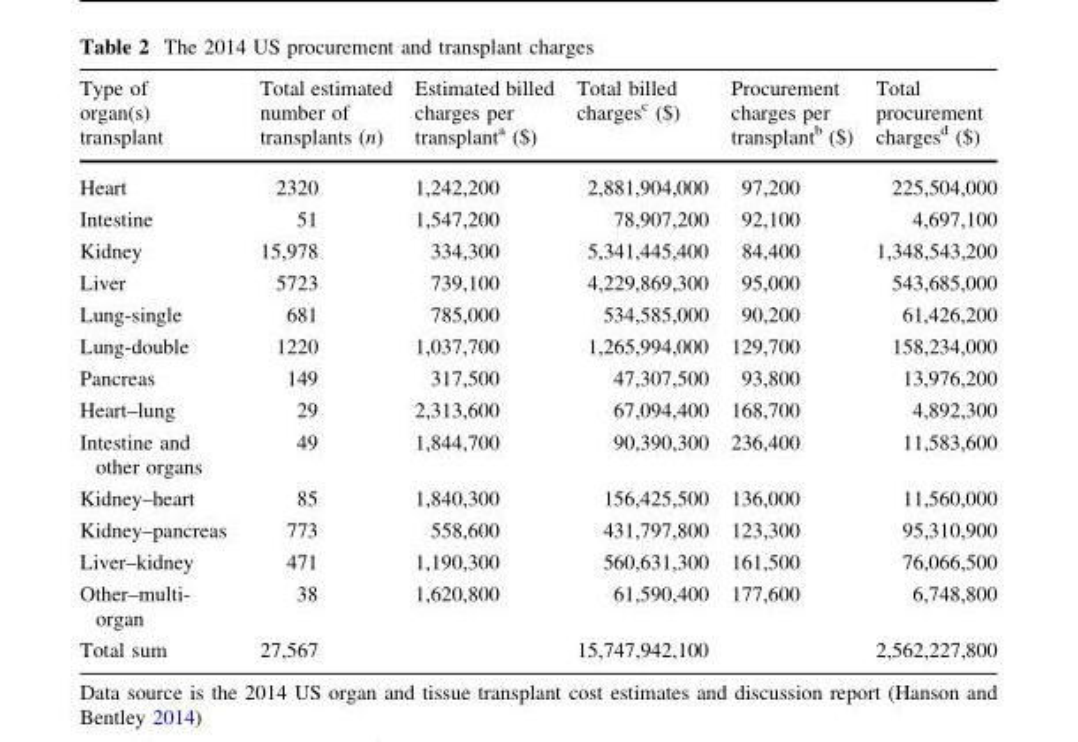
<table><thead><tr><td>Type of organ(s) transplant</td><td>Total estimated number of transplants (n)</td><td>Estimated billed charges per transplant<sup>a</sup> ($)</td><td>Total billed charges<sup>c</sup> ($)</td><td>Procurement charges per transplant<sup>b</sup> ($)</td><td>Total procurement charges<sup>d</sup> ($)</td></tr></thead><tbody><tr><td>Heart</td><td>2320</td><td>1,242,200</td><td>2,881,904,000</td><td>97,200</td><td>225,504,000</td></tr><tr><td>Intestine</td><td>51</td><td>1,547,200</td><td>78,907,200</td><td>92,100</td><td>4,697,100</td></tr><tr><td>Kidney</td><td>15,978</td><td>334,300</td><td>5,341,445,400</td><td>84,400</td><td>1,348,543,200</td></tr><tr><td>Liver</td><td>5723</td><td>739,100</td><td>4,229,869,300</td><td>95,000</td><td>543,685,000</td></tr><tr><td>Lung-single</td><td>681</td><td>785,000</td><td>534,585,000</td><td>90,200</td><td>61,426,200</td></tr><tr><td>Lung-double</td><td>1220</td><td>1,037,700</td><td>1,265,994,000</td><td>129,700</td><td>158,234,000</td></tr><tr><td>Pancreas</td><td>149</td><td>317,500</td><td>47,307,500</td><td>93,800</td><td>13,976,200</td></tr><tr><td>Heart–lung</td><td>29</td><td>2,313,600</td><td>67,094,400</td><td>168,700</td><td>4,892,300</td></tr><tr><td>Intestine and other organs</td><td>49</td><td>1,844,700</td><td>90,390,300</td><td>236,400</td><td>11,583,600</td></tr><tr><td>Kidney–heart</td><td>85</td><td>1,840,300</td><td>156,425,500</td><td>136,000</td><td>11,560,000</td></tr><tr><td>Kidney–pancreas</td><td>773</td><td>558,600</td><td>431,797,800</td><td>123,300</td><td>95,310,900</td></tr><tr><td>Liver–kidney</td><td>471</td><td>1,190,300</td><td>560,631,300</td><td>161,500</td><td>76,066,500</td></tr><tr><td>Other–multi- organ</td><td>38</td><td>1,620,800</td><td>61,590,400</td><td>177,600</td><td>6,748,800</td></tr><tr><td>Total sum</td><td>27,567</td><td></td><td>15,747,942,100</td><td></td><td>2,562,227,800</td></tr></tbody></table>